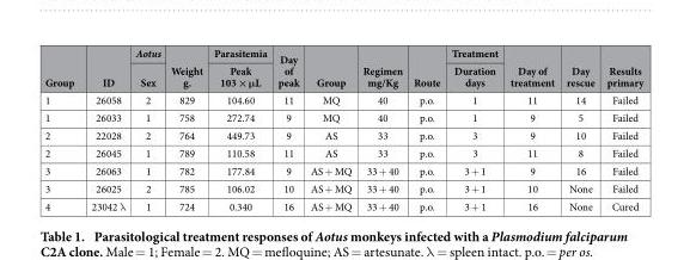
<table><thead><tr><td rowspan="2">Group</td><td rowspan="2">ID</td><td rowspan="2">Aotus Sex</td><td rowspan="2">Weight g.</td><td rowspan="2">Parasitemia Peak 103 × μL</td><td rowspan="2">Day of peak</td><td rowspan="2">Group</td><td rowspan="2">Regimen mg/Kg</td><td rowspan="2">Route</td><td rowspan="2">Treatment Duration days</td><td rowspan="2">Day of treatment</td><td rowspan="2">Day rescue</td><td rowspan="2">Results primary</td></tr><tr></tr></thead><tbody><tr><td>1</td><td>26058</td><td>2</td><td>829</td><td>104.60</td><td>11</td><td>MQ</td><td>40</td><td>p.o.</td><td>1</td><td>11</td><td>14</td><td>Failed</td></tr><tr><td>1</td><td>26033</td><td>1</td><td>758</td><td>272.74</td><td>9</td><td>MQ</td><td>40</td><td>p.o.</td><td>1</td><td>9</td><td>5</td><td>Failed</td></tr><tr><td>2</td><td>22028</td><td>2</td><td>764</td><td>449.73</td><td>9</td><td>AS</td><td>33</td><td>p.o.</td><td>3</td><td>9</td><td>10</td><td>Failed</td></tr><tr><td>2</td><td>26045</td><td>1</td><td>789</td><td>110.58</td><td>11</td><td>AS</td><td>33</td><td>p.o.</td><td>3</td><td>11</td><td>8</td><td>Failed</td></tr><tr><td>3</td><td>26063</td><td>1</td><td>782</td><td>177.84</td><td>9</td><td>AS + MQ</td><td>33 + 40</td><td>p.o.</td><td>3 + 1</td><td>9</td><td>16</td><td>Failed</td></tr><tr><td>3</td><td>26025</td><td>2</td><td>785</td><td>106.02</td><td>10</td><td>AS + MQ</td><td>33 + 40</td><td>p.o.</td><td>3 + 1</td><td>10</td><td>None</td><td>Failed</td></tr><tr><td>4</td><td>23042 λ</td><td>1</td><td>724</td><td>0.340</td><td>16</td><td>AS + MQ</td><td>33 + 40</td><td>p.o.</td><td>3 + 1</td><td>16</td><td>None</td><td>Cured</td></tr></tbody></table>